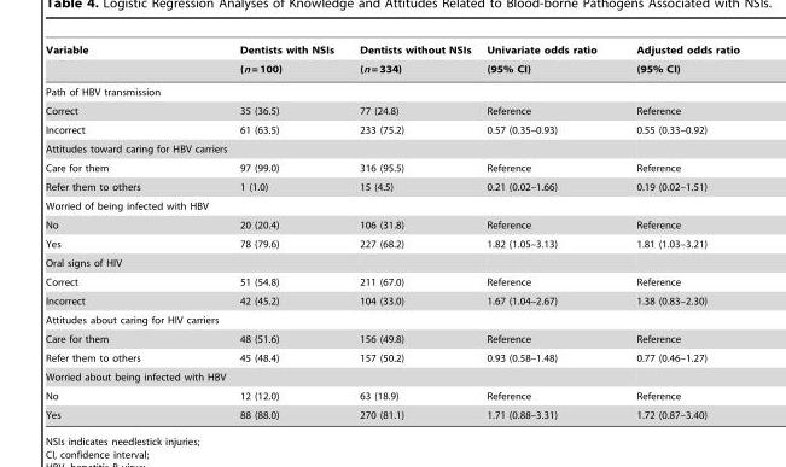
<table><thead><tr><td rowspan="2">Variable</td><td rowspan="2">Dentists with NSIs (n = 100)</td><td rowspan="2">Dentists without NSIs (n = 334)</td><td rowspan="2">Univariate odds ratio (95% CI)</td><td rowspan="2">Adjusted odds ratio (95% CI)</td></tr><tr></tr></thead><tbody><tr><td colspan="5">Path of HBV transmission</td></tr><tr><td>Correct</td><td>35 (36.5)</td><td>77 (24.8)</td><td>Reference</td><td>Reference</td></tr><tr><td>Incorrect</td><td>61 (63.5)</td><td>233 (75.2)</td><td>0.57 (0.35–0.93)</td><td>0.55 (0.33–0.92)</td></tr><tr><td colspan="5">Attitudes toward caring for HBV carriers</td></tr><tr><td>Care for them</td><td>97 (99.0)</td><td>316 (95.5)</td><td>Reference</td><td>Reference</td></tr><tr><td>Refer them to others</td><td>1 (1.0)</td><td>15 (4.5)</td><td>0.21 (0.02–1.66)</td><td>0.19 (0.02–1.51)</td></tr><tr><td colspan="5">Worried of being infected with HBV</td></tr><tr><td>No</td><td>20 (20.4)</td><td>106 (31.8)</td><td>Reference</td><td>Reference</td></tr><tr><td>Yes</td><td>78 (79.6)</td><td>227 (68.2)</td><td>1.82 (1.05–3.13)</td><td>1.81 (1.03–3.21)</td></tr><tr><td colspan="5">Oral signs of HIV</td></tr><tr><td>Correct</td><td>51 (54.8)</td><td>211 (67.0)</td><td>Reference</td><td>Reference</td></tr><tr><td>Incorrect</td><td>42 (45.2)</td><td>104 (33.0)</td><td>1.67 (1.04–2.67)</td><td>1.38 (0.83–2.30)</td></tr><tr><td colspan="5">Attitudes about caring for HIV carriers</td></tr><tr><td>Care for them</td><td>48 (51.6)</td><td>156 (49.8)</td><td>Reference</td><td>Reference</td></tr><tr><td>Refer them to others</td><td>45 (48.4)</td><td>157 (50.2)</td><td>0.93 (0.58–1.48)</td><td>0.77 (0.46–1.27)</td></tr><tr><td colspan="5">Worried about being infected with HBV</td></tr><tr><td>No</td><td>12 (12.0)</td><td>63 (18.9)</td><td>Reference</td><td>Reference</td></tr><tr><td>Yes</td><td>88 (88.0)</td><td>270 (81.1)</td><td>1.71 (0.88–3.31)</td><td>1.72 (0.87–3.40)</td></tr></tbody></table>